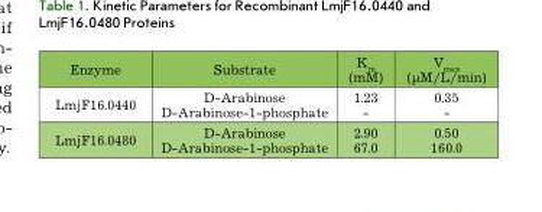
<table><thead><tr><td>enzyme</td><td>Substrate</td><td>K<sub>m</sub> (mM)</td><td>V<sub>max</sub> (μM/L/min)</td></tr></thead><tbody><tr><td>LmjF16.0440</td><td>D-Arabinose D-Arabinose-1-phosphate</td><td>1.23 -</td><td>0.35 -</td></tr><tr><td>LmjF16.0480</td><td>D-Arabinose D-Arabinose-1-phosphate</td><td>2.90 67.0</td><td>0.50 160.0</td></tr></tbody></table>